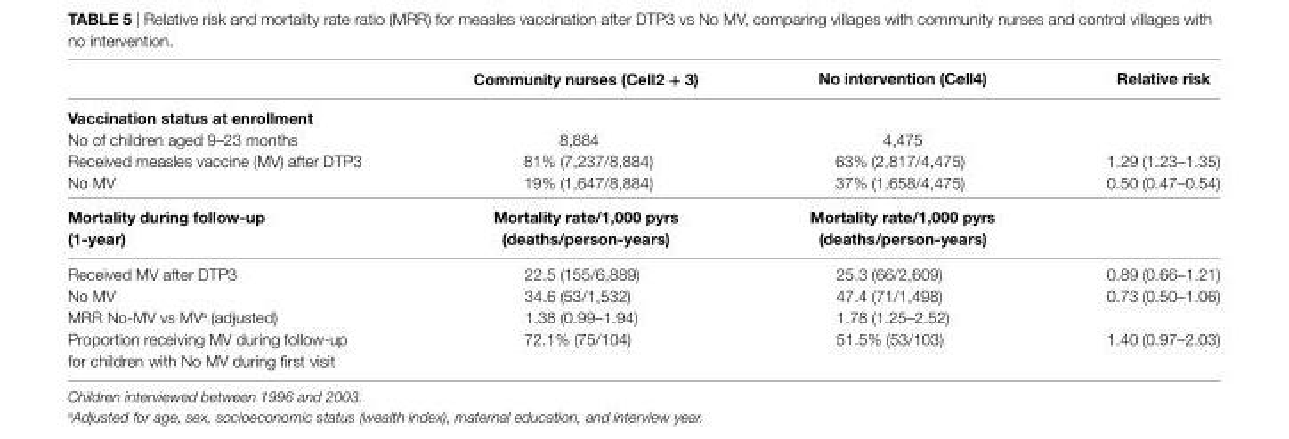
<table><thead><tr><td></td><td>community nurses (cell2 + 3)</td><td>no intervention (cell4)</td><td>relative risk</td></tr></thead><tbody><tr><td colspan="4">Vaccination status at enrollment</td></tr><tr><td>No of children aged 9–23 months</td><td>8,884</td><td>4,475</td><td></td></tr><tr><td>Received measles vaccine (MV) after DTP3</td><td>81% (7,237/8,884)</td><td>63% (2,817/4,475)</td><td>1.29 (1.23–1.35)</td></tr><tr><td>No MV</td><td>19% (1,647/8,884)</td><td>37% (1,658/4,475)</td><td>0.50 (0.47–0.54)</td></tr><tr><td>Mortality during follow-up (1-year)</td><td>Mortality rate/1,000 pyrs (deaths/person-years)</td><td>Mortality rate/1,000 pyrs (deaths/person-years)</td><td></td></tr><tr><td>Received MV after DTP3</td><td>22.5 (155/6,889)</td><td>25.3 (66/2,609)</td><td>0.89 (0.66–1.21)</td></tr><tr><td>No MV</td><td>34.6 (53/1,532)</td><td>47.4 (71/1,498)</td><td>0.73 (0.50–1.06)</td></tr><tr><td>MRR No-MV vs MV<sup>a</sup> (adjusted)</td><td>1.38 (0.99–1.94)</td><td>1.78 (1.25–2.52)</td><td></td></tr><tr><td>Proportion receiving MV during follow-up for children with No MV during first visit</td><td>72.1% (75/104)</td><td>51.5% (53/103)</td><td>1.40 (0.97–2.03)</td></tr></tbody></table>